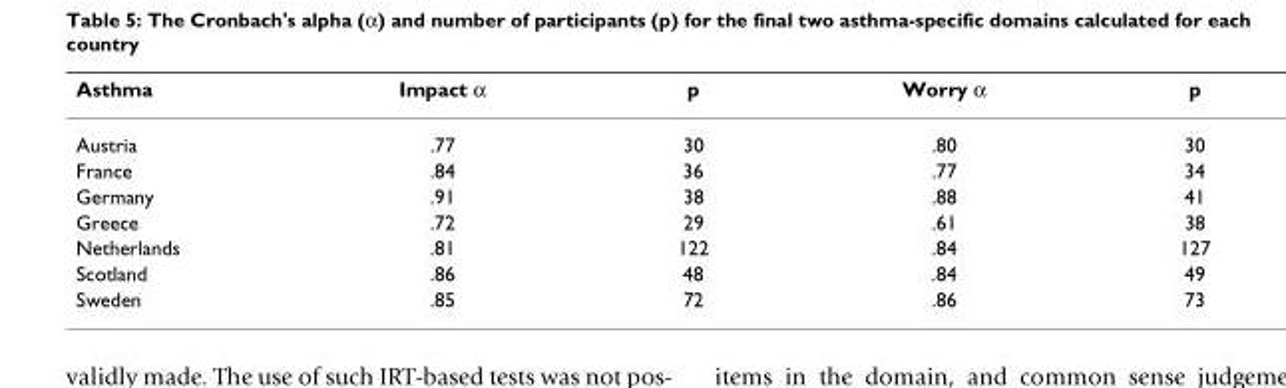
<table><thead><tr><td>Asthma</td><td>Impact α</td><td>p</td><td>Worry α</td><td>p</td></tr></thead><tbody><tr><td>Austria</td><td>.77</td><td>30</td><td>.80</td><td>30</td></tr><tr><td>France</td><td>.84</td><td>36</td><td>.77</td><td>34</td></tr><tr><td>Germany</td><td>.91</td><td>38</td><td>.88</td><td>41</td></tr><tr><td>Greece</td><td>.72</td><td>29</td><td>.61</td><td>38</td></tr><tr><td>Netherlands</td><td>.81</td><td>122</td><td>.84</td><td>127</td></tr><tr><td>Scotland</td><td>.86</td><td>48</td><td>.84</td><td>49</td></tr><tr><td>Sweden</td><td>.85</td><td>72</td><td>.86</td><td>73</td></tr></tbody></table>